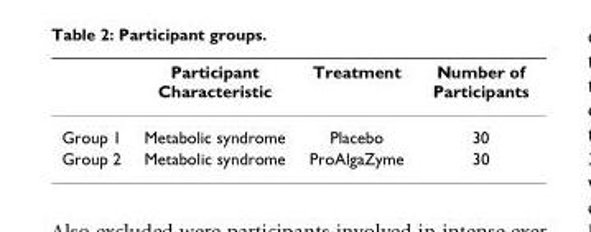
<table><thead><tr><td></td><td>Participant Characteristic</td><td>Treatment</td><td>Number of Participants</td></tr></thead><tbody><tr><td>Group 1</td><td>Metabolic syndrome</td><td>Placebo</td><td>30</td></tr><tr><td>Group 2</td><td>Metabolic syndrome</td><td>ProAlgaZyme</td><td>30</td></tr></tbody></table>